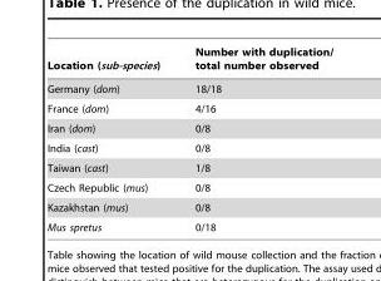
<table><thead><tr><td>Location (sub-species)</td><td>Number with duplication/ total number observed</td></tr></thead><tbody><tr><td>Germany (dom)</td><td>18/18</td></tr><tr><td>France (dom)</td><td>4/16</td></tr><tr><td>Iran (dom)</td><td>0/8</td></tr><tr><td>India (cast)</td><td>0/8</td></tr><tr><td>Taiwan (cast)</td><td>1/8</td></tr><tr><td>Czech Republic (mus)</td><td>0/8</td></tr><tr><td>Kazakhstan (mus)</td><td>0/8</td></tr><tr><td>Mus spretus</td><td>0/18</td></tr></tbody></table>